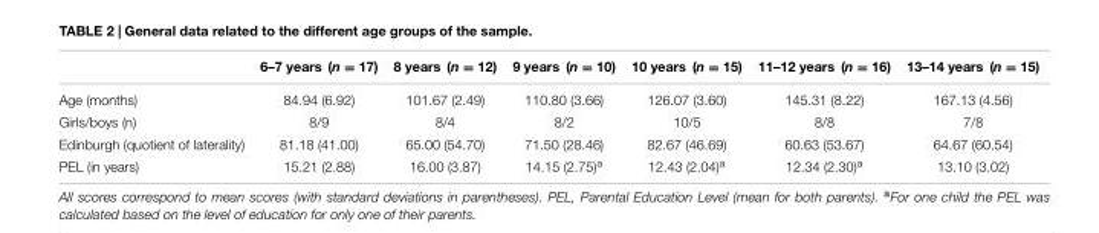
<table><thead><tr><td></td><td>6–7 years (n = 17)</td><td>8 years (n = 12)</td><td>9 years (n = 10)</td><td>10 years (n = 15)</td><td>11–12 years (n = 16)</td><td>13–14 years (n = 15)</td></tr></thead><tbody><tr><td>Age (months)</td><td>84.94 (6.92)</td><td>101.67 (2.49)</td><td>110.80 (3.66)</td><td>126.07 (3.60)</td><td>145.31 (8.22)</td><td>167.13 (4.56)</td></tr><tr><td>Girls/boys (n)</td><td>8/9</td><td>8/4</td><td>8/2</td><td>10/5</td><td>8/8</td><td>7/8</td></tr><tr><td>Edinburgh (quotient of laterality)</td><td>81.18 (41.00)</td><td>65.00 (54.70)</td><td>71.50 (28.46)</td><td>82.67 (46.69)</td><td>60.63 (53.67)</td><td>64.67 (60.54)</td></tr><tr><td>PEL (in years)</td><td>15.21 (2.88)</td><td>16.00 (3.87)</td><td>14.15 (2.75)<sup>a</sup></td><td>12.43 (2.04)<sup>a</sup></td><td>12.34 (2.30)<sup>a</sup></td><td>13.10 (3.02)</td></tr></tbody></table>